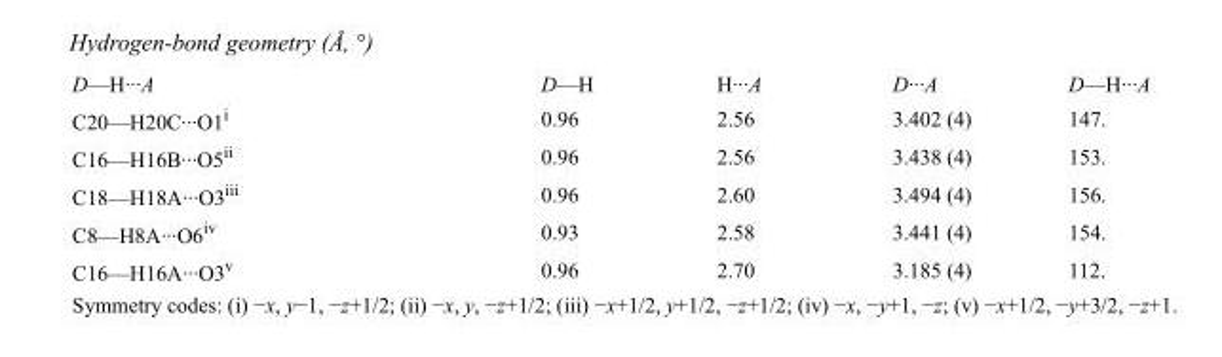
<table><tbody><tr><td>D—H···A</td><td>D—H</td><td>H···A</td><td>D···A</td><td>D—H···A</td></tr><tr><td>C20—H20C···O1<sup>i</sup></td><td>0.96</td><td>2.56</td><td>3.402 (4)</td><td>147.</td></tr><tr><td>C16—H16B···O5<sup>ii</sup></td><td>0.96</td><td>2.56</td><td>3.438 (4)</td><td>153.</td></tr><tr><td>C18—H18A···O3<sup>iii</sup></td><td>0.96</td><td>2.60</td><td>3.494 (4)</td><td>156.</td></tr><tr><td>C8—H8A···O6<sup>iv</sup></td><td>0.93</td><td>2.58</td><td>3.441 (4)</td><td>154.</td></tr><tr><td>C16—H16A···O3<sup>v</sup></td><td>0.96</td><td>2.70</td><td>3.185 (4)</td><td>112.</td></tr></tbody></table>